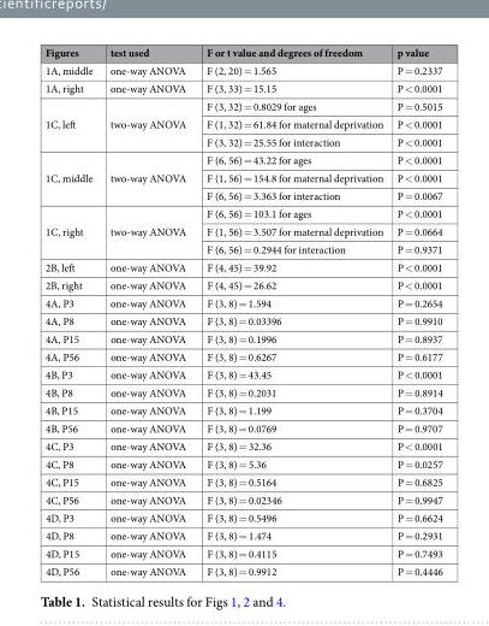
<table><thead><tr><td>Figures</td><td>test used</td><td>F or t value and degrees of freedom</td><td>p value</td></tr></thead><tbody><tr><td>1A, middle</td><td>one-way ANOVA</td><td>F (2, 20) = 1.565</td><td>P = 0.2337</td></tr><tr><td>1A, right</td><td>one-way ANOVA</td><td>F (3, 33) = 15.15</td><td>P &lt; 0.0001</td></tr><tr><td rowspan="3">1C, left</td><td rowspan="3">two-way ANOVA</td><td>F (3, 32) = 0.8029 for ages</td><td>P = 0.5015</td></tr><tr><td>F (1, 32) = 61.84 for maternal deprivation</td><td>P &lt; 0.0001</td></tr><tr><td>F (3, 32) = 25.55 for interaction</td><td>P &lt; 0.0001</td></tr><tr><td rowspan="3">1C, middle</td><td rowspan="3">two-way ANOVA</td><td>F (6, 56) = 43.22 for ages</td><td>P &lt; 0.0001</td></tr><tr><td>F (1, 56) = 154.8 for maternal deprivation</td><td>P &lt; 0.0001</td></tr><tr><td>F (6, 56) = 3.363 for interaction</td><td>P = 0.0067</td></tr><tr><td rowspan="3">1C, right</td><td rowspan="3">two-way ANOVA</td><td>F (6, 56) = 103.1 for ages</td><td>P &lt; 0.0001</td></tr><tr><td>F (1, 56) = 3.507 for maternal deprivation</td><td>P = 0.0664</td></tr><tr><td>F (6, 56) = 0.2944 for interaction</td><td>P = 0.9371</td></tr><tr><td>2B, left</td><td>one-way ANOVA</td><td>F (4, 45) = 39.92</td><td>P &lt; 0.0001</td></tr><tr><td>2B, right</td><td>one-way ANOVA</td><td>F (4, 45) = 26.62</td><td>P &lt; 0.0001</td></tr><tr><td>4A, P3</td><td>one-way ANOVA</td><td>F (3, 8) = 1.594</td><td>P = 0.2654</td></tr><tr><td>4A, P8</td><td>one-way ANOVA</td><td>F (3, 8) = 0.03396</td><td>P = 0.9910</td></tr><tr><td>4A, P15</td><td>one-way ANOVA</td><td>F (3, 8) = 0.1996</td><td>P = 0.8937</td></tr><tr><td>4A, P56</td><td>one-way ANOVA</td><td>F (3, 8) = 0.6267</td><td>P = 0.6177</td></tr><tr><td>4B, P3</td><td>one-way ANOVA</td><td>F (3, 8) = 43.45</td><td>P &lt; 0.0001</td></tr><tr><td>4B, P8</td><td>one-way ANOVA</td><td>F (3, 8) = 0.2031</td><td>P = 0.8914</td></tr><tr><td>4B, P15</td><td>one-way ANOVA</td><td>F (3, 8) = 1.199</td><td>P = 0.3704</td></tr><tr><td>4B, P56</td><td>one-way ANOVA</td><td>F (3, 8) = 0.0769</td><td>P = 0.9707</td></tr><tr><td>4C, P3</td><td>one-way ANOVA</td><td>F (3, 8) = 32.36</td><td>P &lt; 0.0001</td></tr><tr><td>4C, P8</td><td>one-way ANOVA</td><td>F (3, 8) = 5.36</td><td>P = 0.0257</td></tr><tr><td>4C, P15</td><td>one-way ANOVA</td><td>F (3, 8) = 0.5164</td><td>P = 0.6825</td></tr><tr><td>4C, P56</td><td>one-way ANOVA</td><td>F (3, 8) = 0.02346</td><td>P = 0.9947</td></tr><tr><td>4D, P3</td><td>one-way ANOVA</td><td>F (3, 8) = 0.5496</td><td>P = 0.6624</td></tr><tr><td>4D, P8</td><td>one-way ANOVA</td><td>F (3, 8) = 1.474</td><td>P = 0.2931</td></tr><tr><td>4D, P15</td><td>one-way ANOVA</td><td>F (3, 8) = 0.4115</td><td>P = 0.7493</td></tr><tr><td>4D, P56</td><td>one-way ANOVA</td><td>F (3, 8) = 0.9912</td><td>P = 0.4446</td></tr></tbody></table>